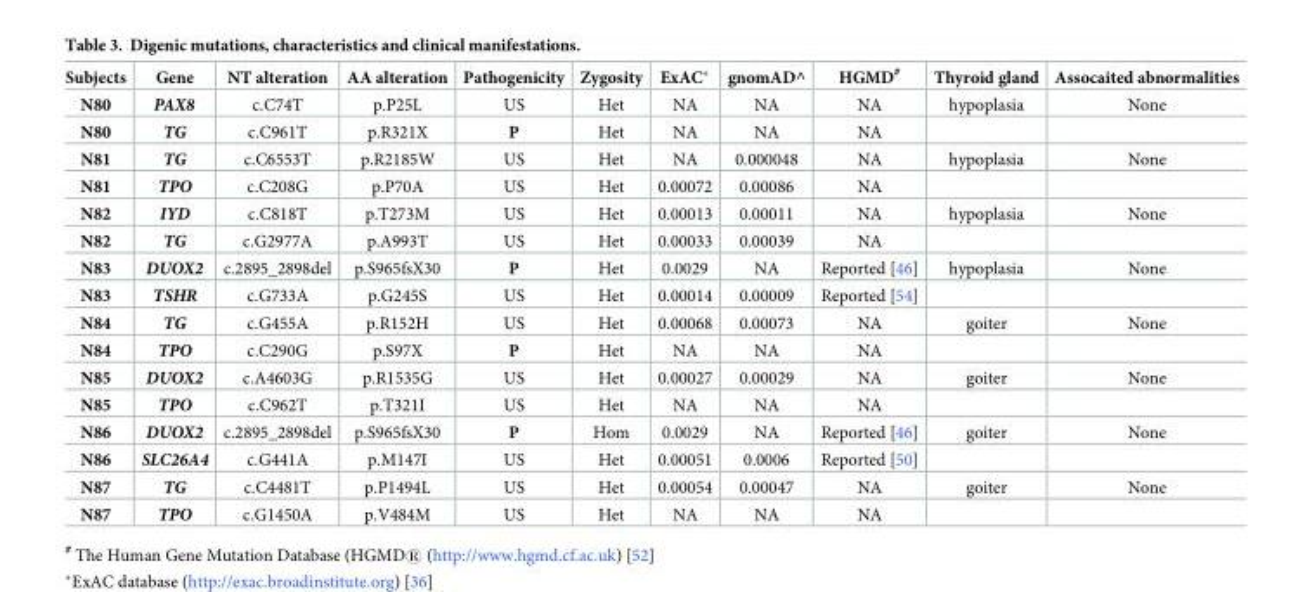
<table><thead><tr><td>Subjects</td><td>Gene</td><td>NT alteration</td><td>AA alteration</td><td>Pathogenicity</td><td>Zygosity</td><td>ExAC*</td><td>gnomAD^</td><td>HGMD<sup>#</sup></td><td>Thyroid gland</td><td>Assocaited abnormalities</td></tr></thead><tbody><tr><td>N80</td><td>PAX8</td><td>c.C74T</td><td>p.P25L</td><td>US</td><td>Het</td><td>NA</td><td>NA</td><td>NA</td><td>hypoplasia</td><td>None</td></tr><tr><td>N80</td><td>TG</td><td>c.C961T</td><td>p.R321X</td><td>P</td><td>Het</td><td>NA</td><td>NA</td><td>NA</td><td></td><td></td></tr><tr><td>N81</td><td>TG</td><td>c.C6553T</td><td>p.R2185W</td><td>US</td><td>Het</td><td>NA</td><td>0.000048</td><td>NA</td><td>hypoplasia</td><td>None</td></tr><tr><td>N81</td><td>TPO</td><td>c.C208G</td><td>p.P70A</td><td>US</td><td>Het</td><td>0.00072</td><td>0.00086</td><td>NA</td><td></td><td></td></tr><tr><td>N82</td><td>IYD</td><td>c.C818T</td><td>p.T273M</td><td>US</td><td>Het</td><td>0.00013</td><td>0.00011</td><td>NA</td><td>hypoplasia</td><td>None</td></tr><tr><td>N82</td><td>TG</td><td>c.G2977A</td><td>p.A993T</td><td>US</td><td>Het</td><td>0.00033</td><td>0.00039</td><td>NA</td><td></td><td></td></tr><tr><td>N83</td><td>DUOX2</td><td>c.2895_2898del</td><td>p.S965fsX30</td><td>P</td><td>Het</td><td>0.0029</td><td>NA</td><td>Reported [46]</td><td>hypoplasia</td><td>None</td></tr><tr><td>N83</td><td>TSHR</td><td>c.G733A</td><td>p.G245S</td><td>US</td><td>Het</td><td>0.00014</td><td>0.00009</td><td>Reported [54]</td><td></td><td></td></tr><tr><td>N84</td><td>TG</td><td>c.G455A</td><td>p.R152H</td><td>US</td><td>Het</td><td>0.00068</td><td>0.00073</td><td>NA</td><td>goiter</td><td>None</td></tr><tr><td>N84</td><td>TPO</td><td>c.C290G</td><td>p.S97X</td><td>P</td><td>Het</td><td>NA</td><td>NA</td><td>NA</td><td></td><td></td></tr><tr><td>N85</td><td>DUOX2</td><td>c.A4603G</td><td>p.R1535G</td><td>US</td><td>Het</td><td>0.00027</td><td>0.00029</td><td>NA</td><td>goiter</td><td>None</td></tr><tr><td>N85</td><td>TPO</td><td>c.C962T</td><td>p.T321I</td><td>US</td><td>Het</td><td>NA</td><td>NA</td><td>NA</td><td></td><td></td></tr><tr><td>N86</td><td>DUOX2</td><td>c.2895_2898del</td><td>p.S965fsX30</td><td>P</td><td>Hom</td><td>0.0029</td><td>NA</td><td>Reported [46]</td><td>goiter</td><td>None</td></tr><tr><td>N86</td><td>SLC26A4</td><td>c.G441A</td><td>p.M147I</td><td>US</td><td>Het</td><td>0.00051</td><td>0.0006</td><td>Reported [50]</td><td></td><td></td></tr><tr><td>N87</td><td>TG</td><td>c.C4481T</td><td>p.P1494L</td><td>US</td><td>Het</td><td>0.00054</td><td>0.00047</td><td>NA</td><td>goiter</td><td>None</td></tr><tr><td>N87</td><td>TPO</td><td>c.G1450A</td><td>p.V484M</td><td>US</td><td>Het</td><td>NA</td><td>NA</td><td>NA</td><td></td><td></td></tr></tbody></table>